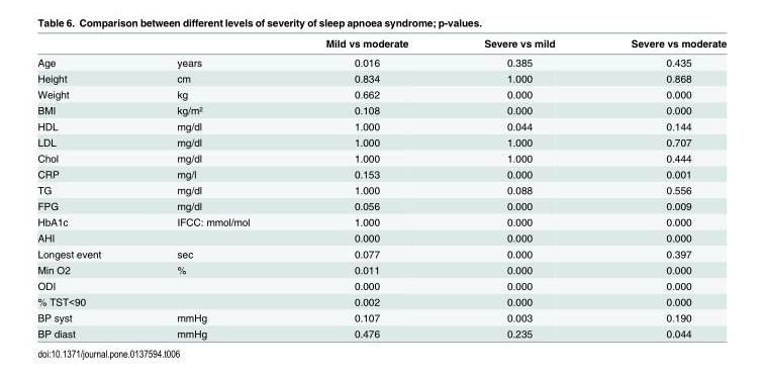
<table><thead><tr><td></td><td></td><td>Mild vs moderate</td><td>Severe vs mild</td><td>Severe vs moderate</td></tr></thead><tbody><tr><td>Age</td><td>years</td><td>0.016</td><td>0.385</td><td>0.435</td></tr><tr><td>Height</td><td>cm</td><td>0.834</td><td>1.000</td><td>0.868</td></tr><tr><td>Weight</td><td>kg</td><td>0.662</td><td>0.000</td><td>0.000</td></tr><tr><td>BMI</td><td>kg/m²</td><td>0.108</td><td>0.000</td><td>0.000</td></tr><tr><td>HDL</td><td>mg/dl</td><td>1.000</td><td>0.044</td><td>0.144</td></tr><tr><td>LDL</td><td>mg/dl</td><td>1.000</td><td>1.000</td><td>0.707</td></tr><tr><td>Chol</td><td>mg/dl</td><td>1.000</td><td>1.000</td><td>0.444</td></tr><tr><td>CRP</td><td>mg/l</td><td>0.153</td><td>0.000</td><td>0.001</td></tr><tr><td>TG</td><td>mg/dl</td><td>1.000</td><td>0.088</td><td>0.556</td></tr><tr><td>FPG</td><td>mg/dl</td><td>0.056</td><td>0.000</td><td>0.009</td></tr><tr><td>HbA1c</td><td>IFCC: mmol/mol</td><td>1.000</td><td>0.000</td><td>0.000</td></tr><tr><td>AHI</td><td></td><td>0.000</td><td>0.000</td><td>0.000</td></tr><tr><td>Longest event</td><td>sec</td><td>0.077</td><td>0.000</td><td>0.397</td></tr><tr><td>Min O2</td><td>%</td><td>0.011</td><td>0.000</td><td>0.000</td></tr><tr><td>ODI</td><td></td><td>0.000</td><td>0.000</td><td>0.000</td></tr><tr><td>% TST&lt;90</td><td></td><td>0.002</td><td>0.000</td><td>0.000</td></tr><tr><td>BP syst</td><td>mmHg</td><td>0.107</td><td>0.003</td><td>0.190</td></tr><tr><td>BP diast</td><td>mmHg</td><td>0.476</td><td>0.235</td><td>0.044</td></tr></tbody></table>